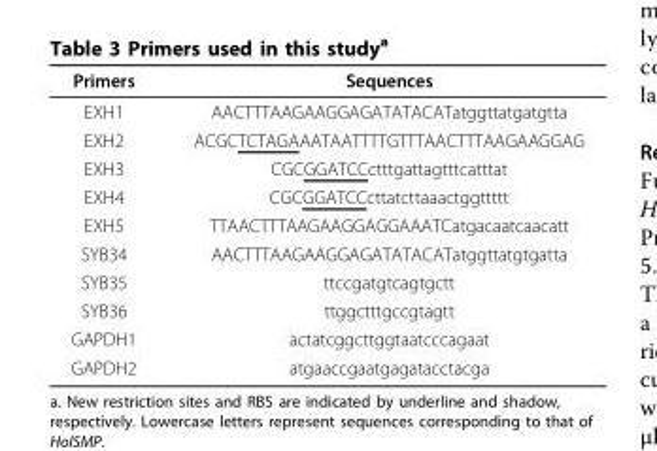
<table><thead><tr><td>Primers</td><td>Sequences</td></tr></thead><tbody><tr><td>EXH1</td><td>AACTTTAAGAAGGAGATATACATatggttatgatgtta</td></tr><tr><td>EXH2</td><td>ACGCTCTAGAAATAATTTTGTTTAACTTTAAGAAGGAG</td></tr><tr><td>EXH3</td><td>CGCGGATCCctttgattagtttcatttat</td></tr><tr><td>EXH4</td><td>CGCGGATCCcttatcttaaactggttttt</td></tr><tr><td>EXH5</td><td>TTAACTTTAAGAAGGAGGAAATCatgacaatcaacatt</td></tr><tr><td>SYB34</td><td>AACTTTAAGAAGGAGATATACATatggttatgtgatta</td></tr><tr><td>SYB35</td><td>ttccgatgtcagtgctt</td></tr><tr><td>SYB36</td><td>ttggctttgccgtagtt</td></tr><tr><td>GAPDH1</td><td>actatcggcttggtaatcccagaat</td></tr><tr><td>GAPDH2</td><td>atgaaccgaatgagatacctacga</td></tr></tbody></table>